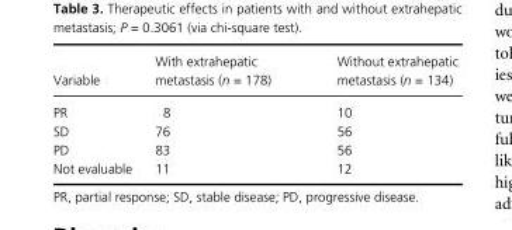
<table><thead><tr><td>Variable</td><td>With extrahepatic metastasis (n = 178)</td><td>Without extrahepatic metastasis (n = 134)</td></tr></thead><tbody><tr><td>PR</td><td>8</td><td>10</td></tr><tr><td>SD</td><td>76</td><td>56</td></tr><tr><td>PD</td><td>83</td><td>56</td></tr><tr><td>Not evaluable</td><td>11</td><td>12</td></tr></tbody></table>